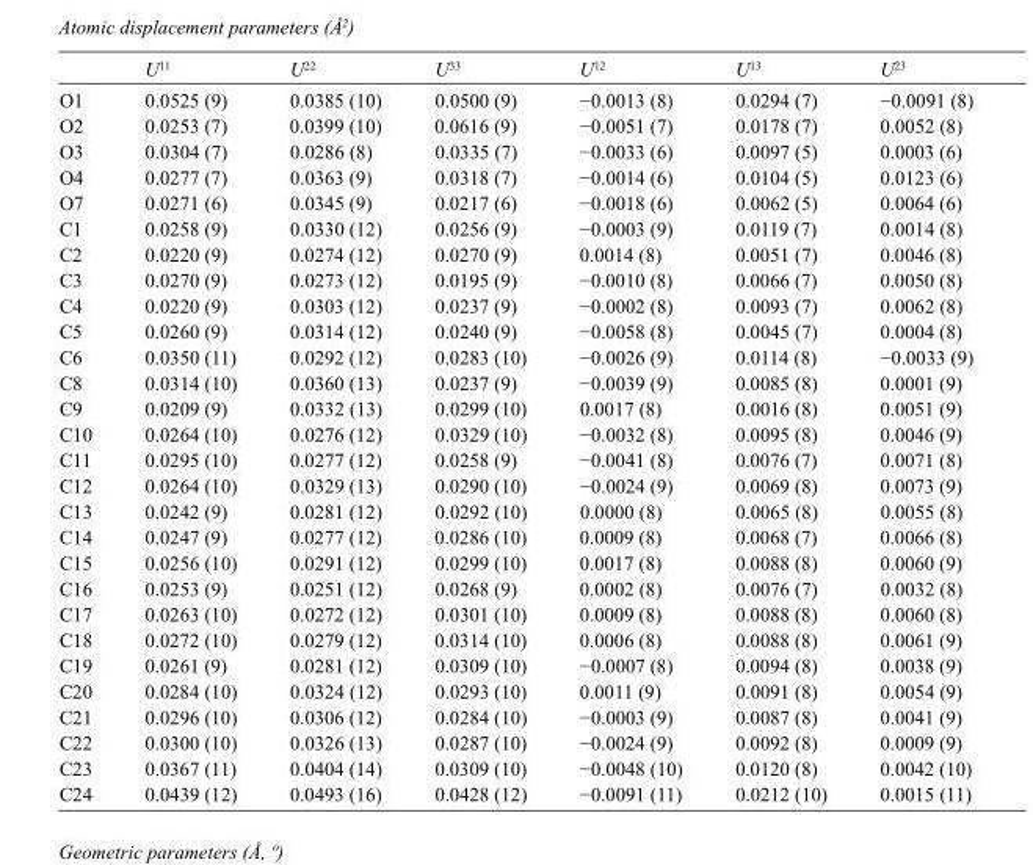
<table><thead><tr><td></td><td>U<sup>11</sup></td><td>U<sup>22</sup></td><td>U<sup>33</sup></td><td>U<sup>12</sup></td><td>U<sup>13</sup></td><td>U<sup>23</sup></td></tr></thead><tbody><tr><td>O1</td><td>0.0525 (9)</td><td>0.0385 (10)</td><td>0.0500 (9)</td><td>−0.0013 (8)</td><td>0.0294 (7)</td><td>−0.0091 (8)</td></tr><tr><td>O2</td><td>0.0253 (7)</td><td>0.0399 (10)</td><td>0.0616 (9)</td><td>−0.0051 (7)</td><td>0.0178 (7)</td><td>0.0052 (8)</td></tr><tr><td>O3</td><td>0.0304 (7)</td><td>0.0286 (8)</td><td>0.0335 (7)</td><td>−0.0033 (6)</td><td>0.0097 (5)</td><td>0.0003 (6)</td></tr><tr><td>O4</td><td>0.0277 (7)</td><td>0.0363 (9)</td><td>0.0318 (7)</td><td>−0.0014 (6)</td><td>0.0104 (5)</td><td>0.0123 (6)</td></tr><tr><td>O7</td><td>0.0271 (6)</td><td>0.0345 (9)</td><td>0.0217 (6)</td><td>−0.0018 (6)</td><td>0.0062 (5)</td><td>0.0064 (6)</td></tr><tr><td>C1</td><td>0.0258 (9)</td><td>0.0330 (12)</td><td>0.0256 (9)</td><td>−0.0003 (9)</td><td>0.0119 (7)</td><td>0.0014 (8)</td></tr><tr><td>C2</td><td>0.0220 (9)</td><td>0.0274 (12)</td><td>0.0270 (9)</td><td>0.0014 (8)</td><td>0.0051 (7)</td><td>0.0046 (8)</td></tr><tr><td>C3</td><td>0.0270 (9)</td><td>0.0273 (12)</td><td>0.0195 (9)</td><td>−0.0010 (8)</td><td>0.0066 (7)</td><td>0.0050 (8)</td></tr><tr><td>C4</td><td>0.0220 (9)</td><td>0.0303 (12)</td><td>0.0237 (9)</td><td>−0.0002 (8)</td><td>0.0093 (7)</td><td>0.0062 (8)</td></tr><tr><td>C5</td><td>0.0260 (9)</td><td>0.0314 (12)</td><td>0.0240 (9)</td><td>−0.0058 (8)</td><td>0.0045 (7)</td><td>0.0004 (8)</td></tr><tr><td>C6</td><td>0.0350 (11)</td><td>0.0292 (12)</td><td>0.0283 (10)</td><td>−0.0026 (9)</td><td>0.0114 (8)</td><td>−0.0033 (9)</td></tr><tr><td>C8</td><td>0.0314 (10)</td><td>0.0360 (13)</td><td>0.0237 (9)</td><td>−0.0039 (9)</td><td>0.0085 (8)</td><td>0.0001 (9)</td></tr><tr><td>C9</td><td>0.0209 (9)</td><td>0.0332 (13)</td><td>0.0299 (10)</td><td>0.0017 (8)</td><td>0.0016 (8)</td><td>0.0051 (9)</td></tr><tr><td>C10</td><td>0.0264 (10)</td><td>0.0276 (12)</td><td>0.0329 (10)</td><td>−0.0032 (8)</td><td>0.0095 (8)</td><td>0.0046 (9)</td></tr><tr><td>C11</td><td>0.0295 (10)</td><td>0.0277 (12)</td><td>0.0258 (9)</td><td>−0.0041 (8)</td><td>0.0076 (7)</td><td>0.0071 (8)</td></tr><tr><td>C12</td><td>0.0264 (10)</td><td>0.0329 (13)</td><td>0.0290 (10)</td><td>−0.0024 (9)</td><td>0.0069 (8)</td><td>0.0073 (9)</td></tr><tr><td>C13</td><td>0.0242 (9)</td><td>0.0281 (12)</td><td>0.0292 (10)</td><td>0.0000 (8)</td><td>0.0065 (8)</td><td>0.0055 (8)</td></tr><tr><td>C14</td><td>0.0247 (9)</td><td>0.0277 (12)</td><td>0.0286 (10)</td><td>0.0009 (8)</td><td>0.0068 (7)</td><td>0.0066 (8)</td></tr><tr><td>C15</td><td>0.0256 (10)</td><td>0.0291 (12)</td><td>0.0299 (10)</td><td>0.0017 (8)</td><td>0.0088 (8)</td><td>0.0060 (9)</td></tr><tr><td>C16</td><td>0.0253 (9)</td><td>0.0251 (12)</td><td>0.0268 (9)</td><td>0.0002 (8)</td><td>0.0076 (7)</td><td>0.0032 (8)</td></tr><tr><td>C17</td><td>0.0263 (10)</td><td>0.0272 (12)</td><td>0.0301 (10)</td><td>0.0009 (8)</td><td>0.0088 (8)</td><td>0.0060 (8)</td></tr><tr><td>C18</td><td>0.0272 (10)</td><td>0.0279 (12)</td><td>0.0314 (10)</td><td>0.0006 (8)</td><td>0.0088 (8)</td><td>0.0061 (9)</td></tr><tr><td>C19</td><td>0.0261 (9)</td><td>0.0281 (12)</td><td>0.0309 (10)</td><td>−0.0007 (8)</td><td>0.0094 (8)</td><td>0.0038 (9)</td></tr><tr><td>C20</td><td>0.0284 (10)</td><td>0.0324 (12)</td><td>0.0293 (10)</td><td>0.0011 (9)</td><td>0.0091 (8)</td><td>0.0054 (9)</td></tr><tr><td>C21</td><td>0.0296 (10)</td><td>0.0306 (12)</td><td>0.0284 (10)</td><td>−0.0003 (9)</td><td>0.0087 (8)</td><td>0.0041 (9)</td></tr><tr><td>C22</td><td>0.0300 (10)</td><td>0.0326 (13)</td><td>0.0287 (10)</td><td>−0.0024 (9)</td><td>0.0092 (8)</td><td>0.0009 (9)</td></tr><tr><td>C23</td><td>0.0367 (11)</td><td>0.0404 (14)</td><td>0.0309 (10)</td><td>−0.0048 (10)</td><td>0.0120 (8)</td><td>0.0042 (10)</td></tr><tr><td>C24</td><td>0.0439 (12)</td><td>0.0493 (16)</td><td>0.0428 (12)</td><td>−0.0091 (11)</td><td>0.0212 (10)</td><td>0.0015 (11)</td></tr></tbody></table>